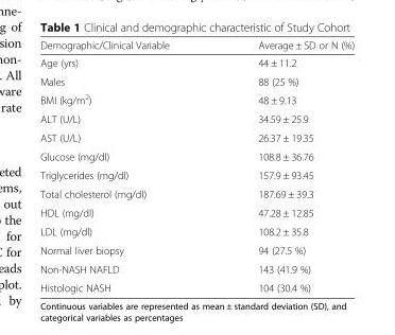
<table><thead><tr><td>Demographic/Clinical Variable</td><td>Average ± SD or N (%)</td></tr></thead><tbody><tr><td>Age (yrs)</td><td>44 ± 11.2</td></tr><tr><td>Males</td><td>88 (25 %)</td></tr><tr><td>BMI (kg/m<sup>2</sup>)</td><td>48 ± 9.13</td></tr><tr><td>ALT (U/L)</td><td>34.59 ± 25.9</td></tr><tr><td>AST (U/L)</td><td>26.37 ± 19.35</td></tr><tr><td>Glucose (mg/dl)</td><td>108.8 ± 36.76</td></tr><tr><td>Triglycerides (mg/dl)</td><td>157.9 ± 93.45</td></tr><tr><td>Total cholesterol (mg/dl)</td><td>187.69 ± 39.3</td></tr><tr><td>HDL (mg/dl)</td><td>47.28 ± 12.85</td></tr><tr><td>LDL (mg/dl)</td><td>108.2 ± 35.8</td></tr><tr><td>Normal liver biopsy</td><td>94 (27.5 %)</td></tr><tr><td>Non-NASH NAFLD</td><td>143 (41.9 %)</td></tr><tr><td>Histologic NASH</td><td>104 (30.4 %)</td></tr></tbody></table>